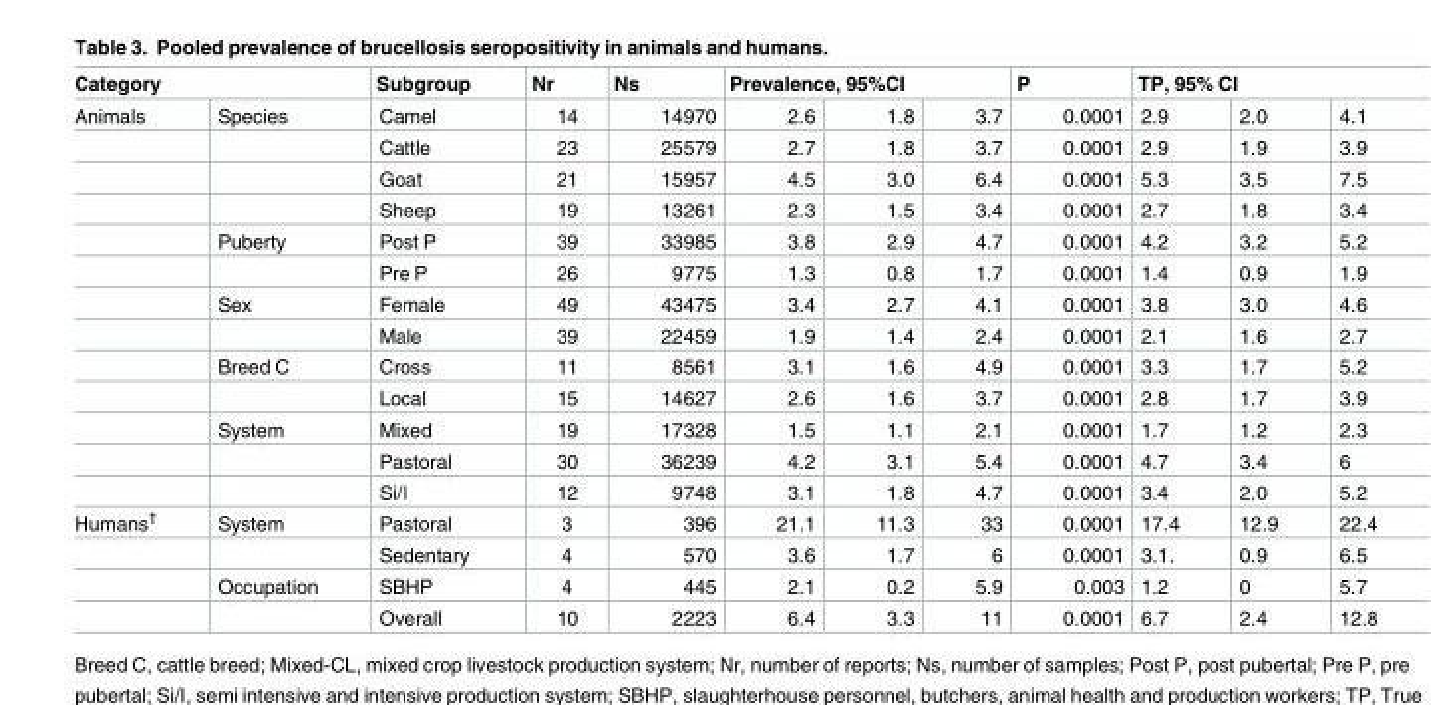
<table><thead><tr><td colspan="2">Category</td><td rowspan="2">Subgroup Camel</td><td rowspan="2">Nr 14</td><td rowspan="2">Ns 14970</td><td colspan="3">Prevalence, 95%CI</td><td rowspan="2">P 0.0001</td><td colspan="3">TP, 95% CI</td></tr><tr><td>Animals</td><td>Species</td><td>2.6</td><td>1.8</td><td>3.7</td><td>2.9</td><td>2.0</td><td>4.1</td></tr></thead><tbody><tr><td></td><td></td><td>Cattle</td><td>23</td><td>25579</td><td>2.7</td><td>1.8</td><td>3.7</td><td>0.0001</td><td>2.9</td><td>1.9</td><td>3.9</td></tr><tr><td></td><td></td><td>Goat</td><td>21</td><td>15957</td><td>4.5</td><td>3.0</td><td>6.4</td><td>0.0001</td><td>5.3</td><td>3.5</td><td>7.5</td></tr><tr><td></td><td></td><td>Sheep</td><td>19</td><td>13261</td><td>2.3</td><td>1.5</td><td>3.4</td><td>0.0001</td><td>2.7</td><td>1.8</td><td>3.4</td></tr><tr><td></td><td>Puberty</td><td>Post P</td><td>39</td><td>33985</td><td>3.8</td><td>2.9</td><td>4.7</td><td>0.0001</td><td>4.2</td><td>3.2</td><td>5.2</td></tr><tr><td></td><td></td><td>Pre P</td><td>26</td><td>9775</td><td>1.3</td><td>0.8</td><td>1.7</td><td>0.0001</td><td>1.4</td><td>0.9</td><td>1.9</td></tr><tr><td></td><td>Sex</td><td>Female</td><td>49</td><td>43475</td><td>3.4</td><td>2.7</td><td>4.1</td><td>0.0001</td><td>3.8</td><td>3.0</td><td>4.6</td></tr><tr><td></td><td></td><td>Male</td><td>39</td><td>22459</td><td>1.9</td><td>1.4</td><td>2.4</td><td>0.0001</td><td>2.1</td><td>1.6</td><td>2.7</td></tr><tr><td></td><td>Breed C</td><td>Cross</td><td>11</td><td>8561</td><td>3.1</td><td>1.6</td><td>4.9</td><td>0.0001</td><td>3.3</td><td>1.7</td><td>5.2</td></tr><tr><td></td><td></td><td>Local</td><td>15</td><td>14627</td><td>2.6</td><td>1.6</td><td>3.7</td><td>0.0001</td><td>2.8</td><td>1.7</td><td>3.9</td></tr><tr><td></td><td>System</td><td>Mixed</td><td>19</td><td>17328</td><td>1.5</td><td>1.1</td><td>2.1</td><td>0.0001</td><td>1.7</td><td>1.2</td><td>2.3</td></tr><tr><td></td><td></td><td>Pastoral</td><td>30</td><td>36239</td><td>4.2</td><td>3.1</td><td>5.4</td><td>0.0001</td><td>4.7</td><td>3.4</td><td>6</td></tr><tr><td></td><td></td><td>Si/I</td><td>12</td><td>9748</td><td>3.1</td><td>1.8</td><td>4.7</td><td>0.0001</td><td>3.4</td><td>2.0</td><td>5.2</td></tr><tr><td rowspan="4">Humans<sup>†</sup></td><td>System</td><td>Pastoral</td><td>3</td><td>396</td><td>21.1</td><td>11.3</td><td>33</td><td>0.0001</td><td>17.4</td><td>12.9</td><td>22.4</td></tr><tr><td></td><td>Sedentary</td><td>4</td><td>570</td><td>3.6</td><td>1.7</td><td>6</td><td>0.0001</td><td>3.1.</td><td>0.9</td><td>6.5</td></tr><tr><td>Occupation</td><td>SBHP</td><td>4</td><td>445</td><td>2.1</td><td>0.2</td><td>5.9</td><td>0.003</td><td>1.2</td><td>0</td><td>5.7</td></tr><tr><td></td><td>Overall</td><td>10</td><td>2223</td><td>6.4</td><td>3.3</td><td>11</td><td>0.0001</td><td>6.7</td><td>2.4</td><td>12.8</td></tr></tbody></table>